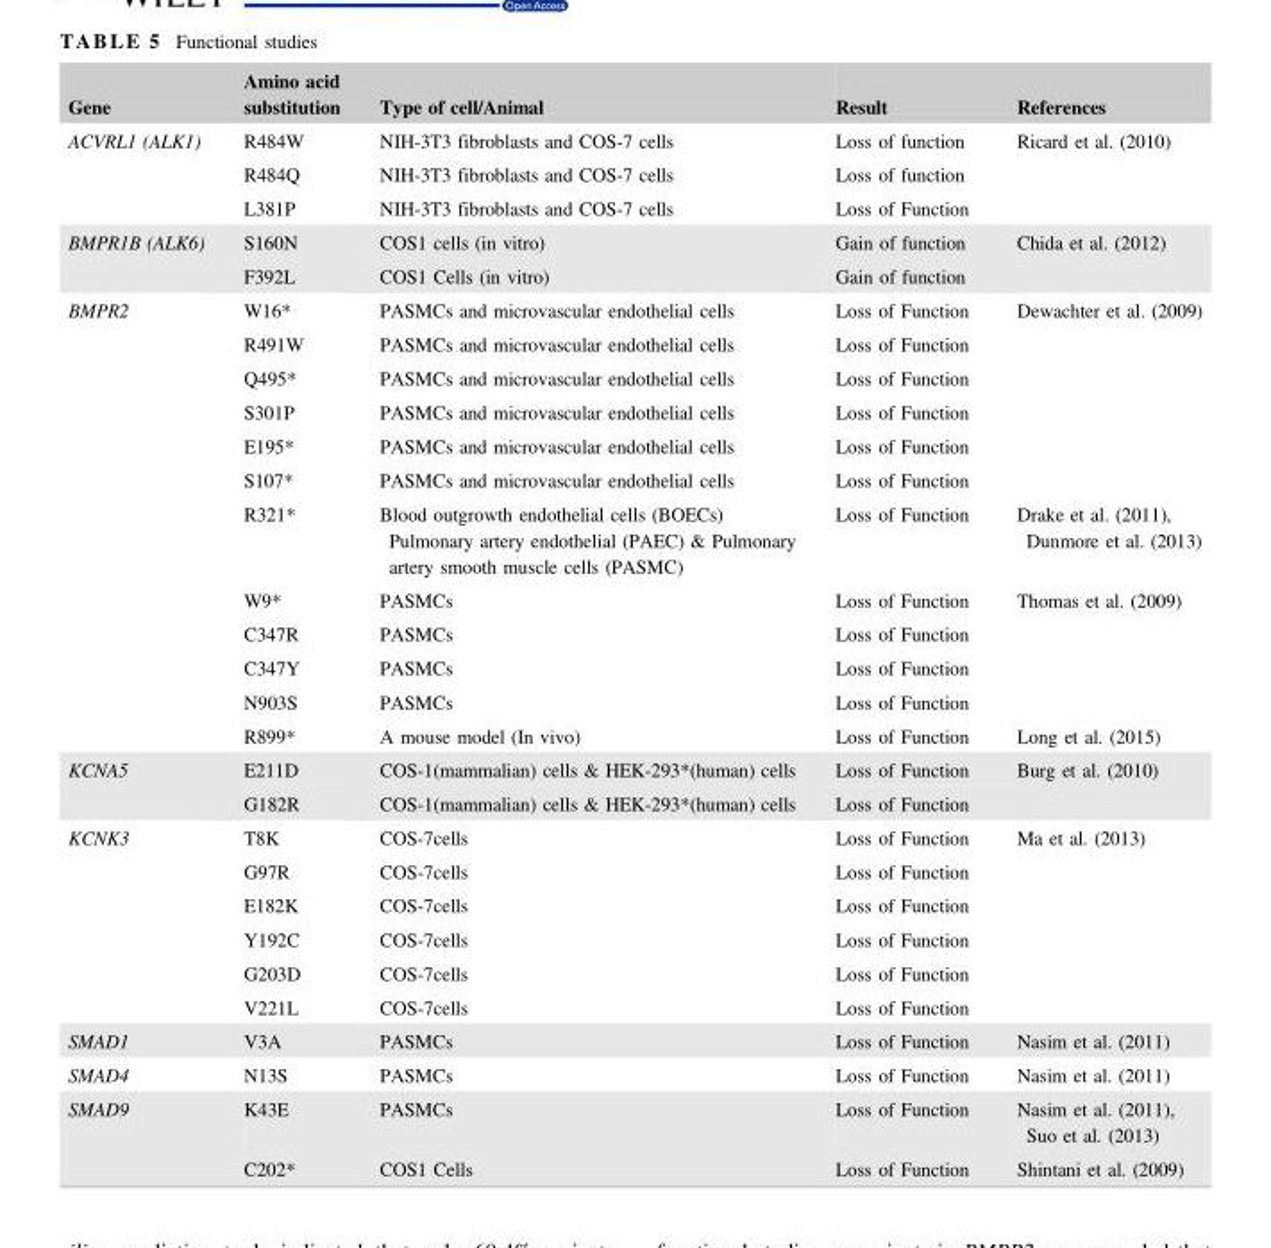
<table><thead><tr><td>Gene</td><td>Amino acid substitution</td><td>Type of cell/Animal</td><td>Result</td><td>References</td></tr></thead><tbody><tr><td rowspan="3">ACVRL1 (ALK1)</td><td>R484W</td><td>NIH‐3T3 fibroblasts and COS‐7 cells</td><td>Loss of function</td><td rowspan="3">Ricard et al. (2010)</td></tr><tr><td>R484Q</td><td>NIH‐3T3 fibroblasts and COS‐7 cells</td><td>Loss of function</td></tr><tr><td>L381P</td><td>NIH‐3T3 fibroblasts and COS‐7 cells</td><td>Loss of Function</td></tr><tr><td rowspan="2">BMPR1B (ALK6)</td><td>S160N</td><td>COS1 cells (in vitro)</td><td>Gain of function</td><td rowspan="2">Chida et al. (2012)</td></tr><tr><td>F392L</td><td>COS1 Cells (in vitro)</td><td>Gain of function</td></tr><tr><td rowspan="12">BMPR2</td><td>W16*</td><td>PASMCs and microvascular endothelial cells</td><td>Loss of Function</td><td rowspan="6">Dewachter et al. (2009)</td></tr><tr><td>R491W</td><td>PASMCs and microvascular endothelial cells</td><td>Loss of Function</td></tr><tr><td>Q495*</td><td>PASMCs and microvascular endothelial cells</td><td>Loss of Function</td></tr><tr><td>S301P</td><td>PASMCs and microvascular endothelial cells</td><td>Loss of Function</td></tr><tr><td>E195*</td><td>PASMCs and microvascular endothelial cells</td><td>Loss of Function</td></tr><tr><td>S107*</td><td>PASMCs and microvascular endothelial cells</td><td>Loss of Function</td></tr><tr><td>R321*</td><td>Blood outgrowth endothelial cells (BOECs) Pulmonary artery endothelial (PAEC) &amp; Pulmonary artery smooth muscle cells (PASMC)</td><td>Loss of Function</td><td>Drake et al. (2011), Dunmore et al. (2013)</td></tr><tr><td>W9*</td><td>PASMCs</td><td>Loss of Function</td><td rowspan="4">Thomas et al. (2009)</td></tr><tr><td>C347R</td><td>PASMCs</td><td>Loss of Function</td></tr><tr><td>C347Y</td><td>PASMCs</td><td>Loss of Function</td></tr><tr><td>N903S</td><td>PASMCs</td><td>Loss of Function</td></tr><tr><td>R899*</td><td>A mouse model (In vivo)</td><td>Loss of Function</td><td>Long et al. (2015)</td></tr><tr><td rowspan="2">KCNA5</td><td>E211D</td><td>COS‐1(mammalian) cells &amp; HEK‐293*(human) cells</td><td>Loss of Function</td><td rowspan="2">Burg et al. (2010)</td></tr><tr><td>G182R</td><td>COS‐1(mammalian) cells &amp; HEK‐293*(human) cells</td><td>Loss of Function</td></tr><tr><td rowspan="6">KCNK3</td><td>T8K</td><td>COS‐7cells</td><td>Loss of Function</td><td rowspan="6">Ma et al. (2013)</td></tr><tr><td>G97R</td><td>COS‐7cells</td><td>Loss of Function</td></tr><tr><td>E182K</td><td>COS‐7cells</td><td>Loss of Function</td></tr><tr><td>Y192C</td><td>COS‐7cells</td><td>Loss of Function</td></tr><tr><td>G203D</td><td>COS‐7cells</td><td>Loss of Function</td></tr><tr><td>V221L</td><td>COS‐7cells</td><td>Loss of Function</td></tr><tr><td>SMAD1</td><td>V3A</td><td>PASMCs</td><td>Loss of Function</td><td>Nasim et al. (2011)</td></tr><tr><td>SMAD4</td><td>N13S</td><td>PASMCs</td><td>Loss of Function</td><td>Nasim et al. (2011)</td></tr><tr><td rowspan="2">SMAD9</td><td>K43E</td><td>PASMCs</td><td>Loss of Function</td><td>Nasim et al. (2011), Suo et al. (2013)</td></tr><tr><td>C202*</td><td>COS1 Cells</td><td>Loss of Function</td><td>Shintani et al. (2009)</td></tr></tbody></table>